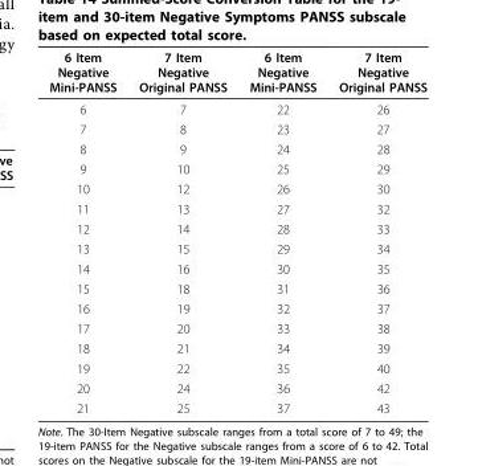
<table><thead><tr><td>6 Item Negative Mini-PANSS</td><td>7 Item Negative Original PANSS</td><td>6 Item Negative Mini-PANSS</td><td>7 Item Negative Original PANSS</td></tr></thead><tbody><tr><td>6</td><td>7</td><td>22</td><td>26</td></tr><tr><td>7</td><td>8</td><td>23</td><td>27</td></tr><tr><td>8</td><td>9</td><td>24</td><td>28</td></tr><tr><td>9</td><td>10</td><td>25</td><td>29</td></tr><tr><td>10</td><td>12</td><td>26</td><td>30</td></tr><tr><td>11</td><td>13</td><td>27</td><td>32</td></tr><tr><td>12</td><td>14</td><td>28</td><td>33</td></tr><tr><td>13</td><td>15</td><td>29</td><td>34</td></tr><tr><td>14</td><td>16</td><td>30</td><td>35</td></tr><tr><td>15</td><td>18</td><td>31</td><td>36</td></tr><tr><td>16</td><td>19</td><td>32</td><td>37</td></tr><tr><td>17</td><td>20</td><td>33</td><td>38</td></tr><tr><td>18</td><td>21</td><td>34</td><td>39</td></tr><tr><td>19</td><td>22</td><td>35</td><td>40</td></tr><tr><td>20</td><td>24</td><td>36</td><td>42</td></tr><tr><td>21</td><td>25</td><td>37</td><td>43</td></tr></tbody></table>